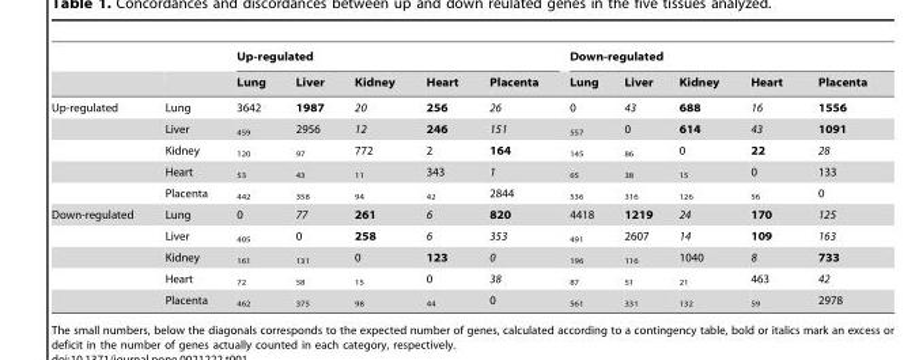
<table><thead><tr><td rowspan="2"></td><td rowspan="2"></td><td colspan="5">Up-regulated</td><td colspan="5">Down-regulated</td></tr><tr><td>Lung</td><td>Liver</td><td>Kidney</td><td>Heart</td><td>Placenta</td><td>Lung</td><td>Liver</td><td>Kidney</td><td>Heart</td><td>Placenta</td></tr></thead><tbody><tr><td rowspan="5">Up-regulated</td><td>Lung</td><td>3642</td><td>1987</td><td>20</td><td>256</td><td>26</td><td>0</td><td>43</td><td>688</td><td>16</td><td>1556</td></tr><tr><td>Liver</td><td><sub>459</sub></td><td>2956</td><td>12</td><td>246</td><td>151</td><td><sub>557</sub></td><td>0</td><td>614</td><td>43</td><td>1091</td></tr><tr><td>Kidney</td><td><sub>120</sub></td><td><sub>97</sub></td><td>772</td><td>2</td><td>164</td><td><sub>145</sub></td><td><sub>86</sub></td><td>0</td><td>22</td><td>28</td></tr><tr><td>Heart</td><td><sub>53</sub></td><td><sub>43</sub></td><td><sub>11</sub></td><td>343</td><td>1</td><td><sub>65</sub></td><td><sub>38</sub></td><td><sub>15</sub></td><td>0</td><td>133</td></tr><tr><td>Placenta</td><td><sub>442</sub></td><td><sub>358</sub></td><td><sub>94</sub></td><td><sub>42</sub></td><td>2844</td><td><sub>536</sub></td><td><sub>316</sub></td><td><sub>126</sub></td><td><sub>56</sub></td><td>0</td></tr><tr><td rowspan="5">Down-regulated</td><td>Lung</td><td>0</td><td>77</td><td>261</td><td>6</td><td>820</td><td>4418</td><td>1219</td><td>24</td><td>170</td><td>125</td></tr><tr><td>Liver</td><td><sub>405</sub></td><td>0</td><td>258</td><td>6</td><td>353</td><td><sub>491</sub></td><td>2607</td><td>14</td><td>109</td><td>163</td></tr><tr><td>Kidney</td><td><sub>161</sub></td><td><sub>131</sub></td><td>0</td><td>123</td><td>0</td><td><sub>196</sub></td><td><sub>116</sub></td><td>1040</td><td>8</td><td>733</td></tr><tr><td>Heart</td><td><sub>72</sub></td><td><sub>58</sub></td><td><sub>15</sub></td><td>0</td><td>38</td><td><sub>87</sub></td><td><sub>51</sub></td><td><sub>21</sub></td><td>463</td><td>42</td></tr><tr><td>Placenta</td><td><sub>462</sub></td><td><sub>375</sub></td><td><sub>98</sub></td><td><sub>44</sub></td><td>0</td><td><sub>561</sub></td><td><sub>331</sub></td><td><sub>132</sub></td><td><sub>59</sub></td><td>2978</td></tr></tbody></table>